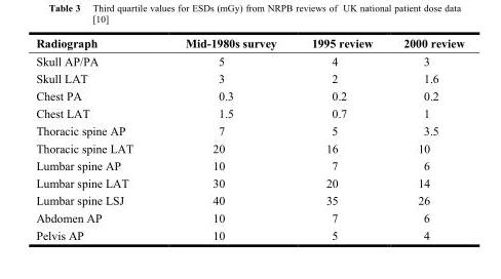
<table><thead><tr><td>Radiograph</td><td>Mid-1980s survey</td><td>1995 review</td><td>2000 review</td></tr></thead><tbody><tr><td>Skull AP/PA</td><td>5</td><td>4</td><td>3</td></tr><tr><td>Skull LAT</td><td>3</td><td>2</td><td>1.6</td></tr><tr><td>Chest PA</td><td>0.3</td><td>0.2</td><td>0.2</td></tr><tr><td>Chest LAT</td><td>1.5</td><td>0.7</td><td>1</td></tr><tr><td>Thoracic spine AP</td><td>7</td><td>5</td><td>3.5</td></tr><tr><td>Thoracic spine LAT</td><td>20</td><td>16</td><td>10</td></tr><tr><td>Lumbar spine AP</td><td>10</td><td>7</td><td>6</td></tr><tr><td>Lumbar spine LAT</td><td>30</td><td>20</td><td>14</td></tr><tr><td>Lumbar spine LSJ</td><td>40</td><td>35</td><td>26</td></tr><tr><td>Abdomen AP</td><td>10</td><td>7</td><td>6</td></tr><tr><td>Pelvis AP</td><td>10</td><td>5</td><td>4</td></tr></tbody></table>